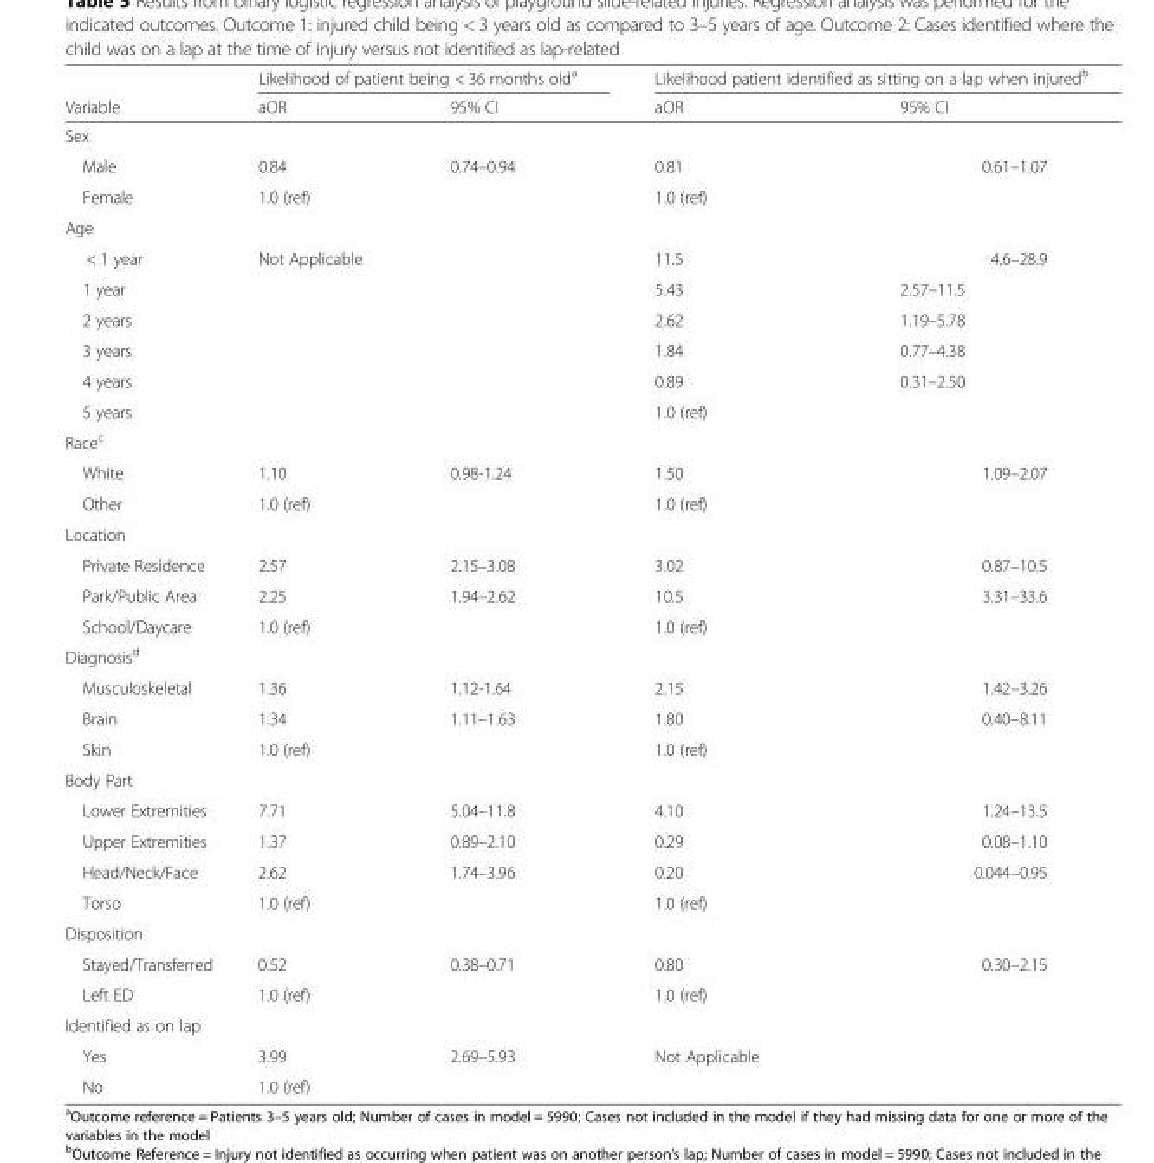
<table><thead><tr><td rowspan="2">Variable</td><td colspan="2">Likelihood of patient being &lt; 36 months old<sup>a</sup></td><td colspan="2">Likelihood patient identified as sitting on a lap when injured<sup>b</sup></td></tr><tr><td>aOR</td><td>95% CI</td><td>aOR</td><td>95% CI</td></tr></thead><tbody><tr><td colspan="5">Sex</td></tr><tr><td>Male</td><td>0.84</td><td rowspan="2">0.74–0.94</td><td>0.81</td><td rowspan="2">0.61–1.07</td></tr><tr><td>Female</td><td>1.0 (ref)</td><td>1.0 (ref)</td></tr><tr><td colspan="5">Age</td></tr><tr><td>&lt; 1 year</td><td rowspan="6" colspan="2">Not Applicable</td><td>11.5</td><td>4.6–28.9</td></tr><tr><td>1 year</td><td>5.43</td><td>2.57–11.5</td></tr><tr><td>2 years</td><td>2.62</td><td>1.19–5.78</td></tr><tr><td>3 years</td><td>1.84</td><td>0.77–4.38</td></tr><tr><td>4 years</td><td>0.89</td><td>0.31–2.50</td></tr><tr><td>5 years</td><td>1.0 (ref)</td><td></td></tr><tr><td colspan="5">Race<sup>c</sup></td></tr><tr><td>White</td><td>1.10</td><td>0.98-1.24</td><td>1.50</td><td>1.09–2.07</td></tr><tr><td>Other</td><td>1.0 (ref)</td><td></td><td>1.0 (ref)</td><td></td></tr><tr><td colspan="5">Location</td></tr><tr><td>Private Residence</td><td>2.57</td><td>2.15–3.08</td><td>3.02</td><td>0.87–10.5</td></tr><tr><td>Park/Public Area</td><td>2.25</td><td>1.94–2.62</td><td>10.5</td><td>3.31–33.6</td></tr><tr><td>School/Daycare</td><td>1.0 (ref)</td><td></td><td>1.0 (ref)</td><td></td></tr><tr><td colspan="5">Diagnosis<sup>d</sup></td></tr><tr><td>Musculoskeletal</td><td>1.36</td><td>1.12-1.64</td><td>2.15</td><td>1.42–3.26</td></tr><tr><td>Brain</td><td>1.34</td><td>1.11–1.63</td><td>1.80</td><td>0.40–8.11</td></tr><tr><td>Skin</td><td>1.0 (ref)</td><td></td><td>1.0 (ref)</td><td></td></tr><tr><td colspan="5">Body Part</td></tr><tr><td>Lower Extremities</td><td>7.71</td><td>5.04–11.8</td><td>4.10</td><td>1.24–13.5</td></tr><tr><td>Upper Extremities</td><td>1.37</td><td>0.89–2.10</td><td>0.29</td><td>0.08–1.10</td></tr><tr><td>Head/Neck/Face</td><td>2.62</td><td>1.74–3.96</td><td>0.20</td><td>0.044–0.95</td></tr><tr><td>Torso</td><td>1.0 (ref)</td><td></td><td>1.0 (ref)</td><td></td></tr><tr><td colspan="5">Disposition</td></tr><tr><td>Stayed/Transferred</td><td>0.52</td><td rowspan="2">0.38–0.71</td><td>0.80</td><td rowspan="2">0.30–2.15</td></tr><tr><td>Left ED</td><td>1.0 (ref)</td><td>1.0 (ref)</td></tr><tr><td colspan="5">Identified as on lap</td></tr><tr><td>Yes</td><td>3.99</td><td rowspan="2">2.69–5.93</td><td rowspan="2" colspan="2">Not Applicable</td></tr><tr><td>No</td><td>1.0 (ref)</td></tr></tbody></table>